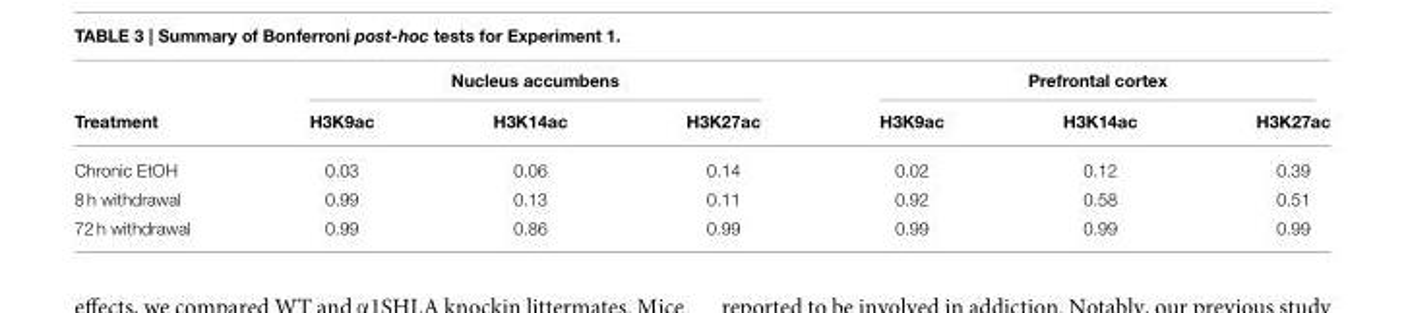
<table><thead><tr><td rowspan="2">Treatment</td><td colspan="3">Nucleus accumbens</td><td colspan="3">Prefrontal cortex</td></tr><tr><td>H3K9ac</td><td>H3K14ac</td><td>H3K27ac</td><td>H3K9ac</td><td>H3K14ac</td><td>H3K27ac</td></tr></thead><tbody><tr><td>Chronic EtOH</td><td>0.03</td><td>0.06</td><td>0.14</td><td>0.02</td><td>0.12</td><td>0.39</td></tr><tr><td>8 h withdrawal</td><td>0.99</td><td>0.13</td><td>0.11</td><td>0.92</td><td>0.58</td><td>0.51</td></tr><tr><td>72 h withdrawal</td><td>0.99</td><td>0.86</td><td>0.99</td><td>0.99</td><td>0.99</td><td>0.99</td></tr></tbody></table>